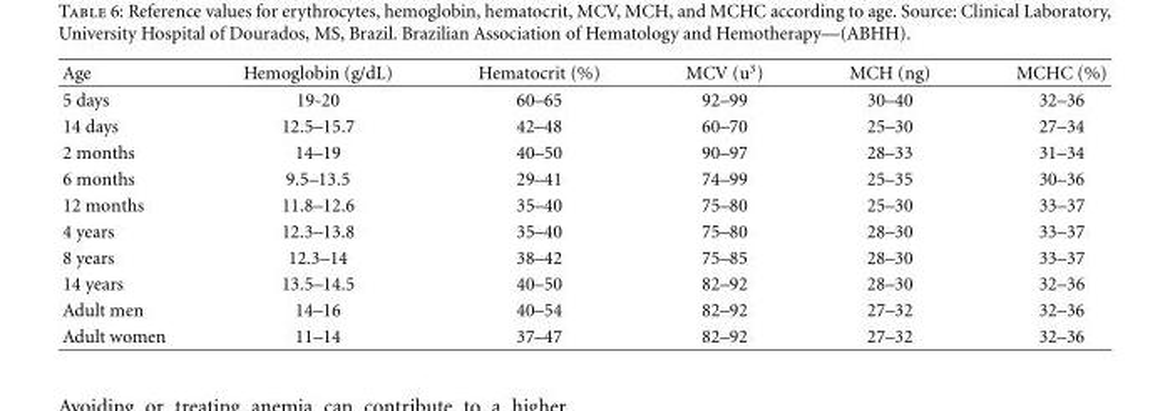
<table><thead><tr><td>Age</td><td>Hemoglobin (g/dL)</td><td>Hematocrit (%)</td><td>MCV (u<sup>3</sup>)</td><td>MCH (ng)</td><td>MCHC (%)</td></tr></thead><tbody><tr><td>5 days</td><td>19-20</td><td>60–65</td><td>92–99</td><td>30–40</td><td>32–36</td></tr><tr><td>14 days</td><td>12.5–15.7</td><td>42–48</td><td>60–70</td><td>25–30</td><td>27–34</td></tr><tr><td>2 months</td><td>14–19</td><td>40–50</td><td>90–97</td><td>28–33</td><td>31–34</td></tr><tr><td>6 months</td><td>9.5–13.5</td><td>29–41</td><td>74–99</td><td>25–35</td><td>30–36</td></tr><tr><td>12 months</td><td>11.8–12.6</td><td>35–40</td><td>75–80</td><td>25–30</td><td>33–37</td></tr><tr><td>4 years</td><td>12.3–13.8</td><td>35–40</td><td>75–80</td><td>28–30</td><td>33–37</td></tr><tr><td>8 years</td><td>12.3–14</td><td>38–42</td><td>75–85</td><td>28–30</td><td>33–37</td></tr><tr><td>14 years</td><td>13.5–14.5</td><td>40–50</td><td>82–92</td><td>28–30</td><td>32–36</td></tr><tr><td>Adult men</td><td>14–16</td><td>40–54</td><td>82–92</td><td>27–32</td><td>32–36</td></tr><tr><td>Adult women</td><td>11–14</td><td>37–47</td><td>82–92</td><td>27–32</td><td>32–36</td></tr></tbody></table>